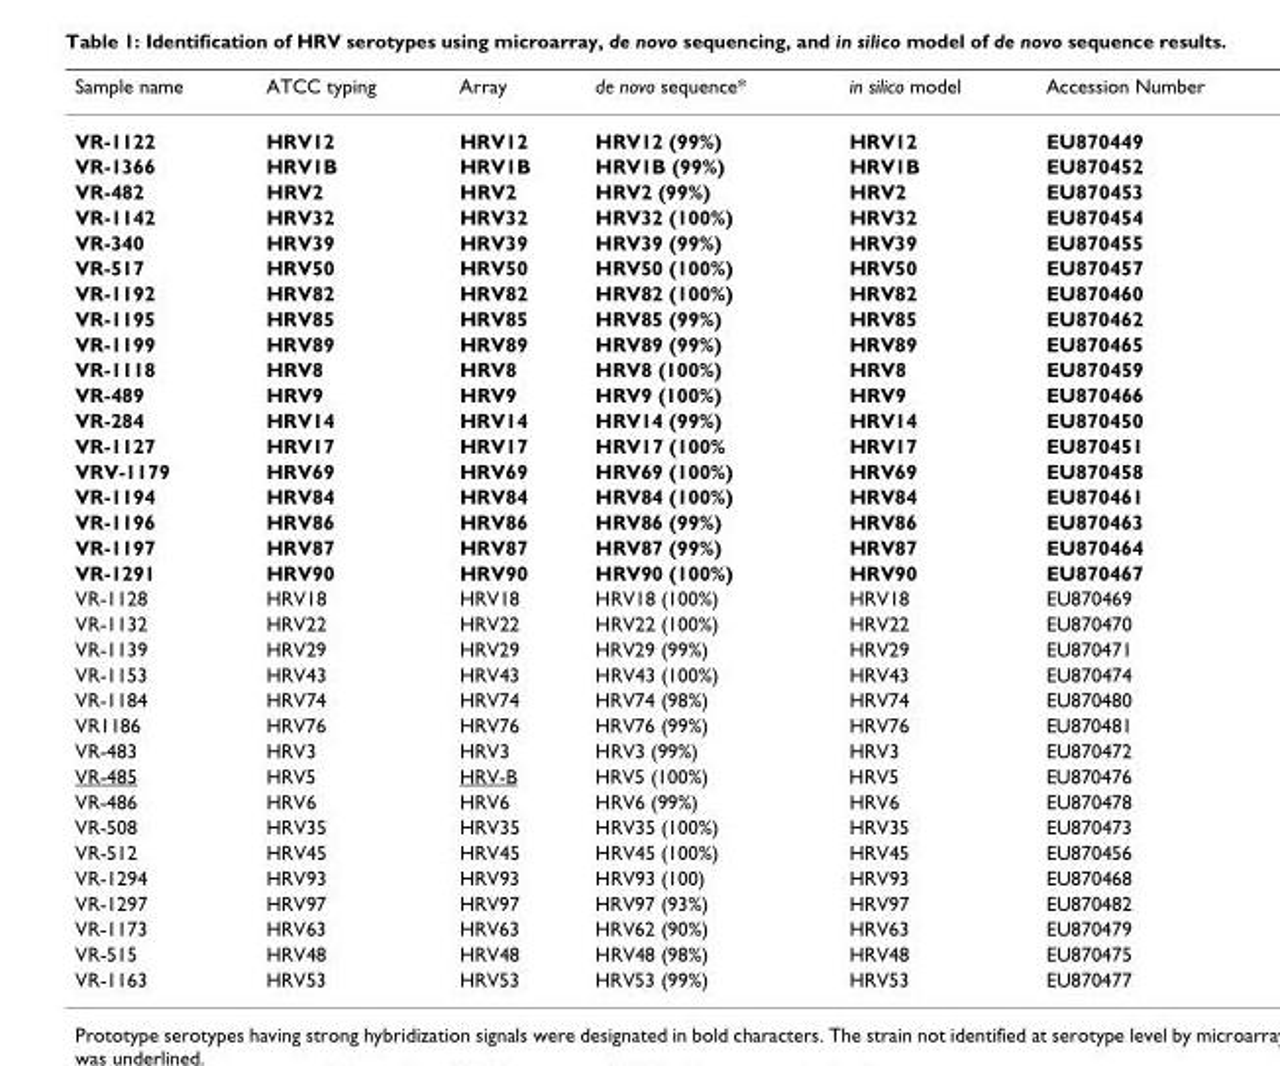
<table><thead><tr><td>Sample name</td><td>ATCC typing</td><td>Array</td><td>de novo sequence*</td><td>in silico model</td><td>Accession Number</td></tr></thead><tbody><tr><td>VR-1122</td><td>HRV12</td><td>HRV12</td><td>HRV12 (99%)</td><td>HRV12</td><td>EU870449</td></tr><tr><td>VR-1366</td><td>HRV1B</td><td>HRV1B</td><td>HRV1B (99%)</td><td>HRV1B</td><td>EU870452</td></tr><tr><td>VR-482</td><td>HRV2</td><td>HRV2</td><td>HRV2 (99%)</td><td>HRV2</td><td>EU870453</td></tr><tr><td>VR-1142</td><td>HRV32</td><td>HRV32</td><td>HRV32 (100%)</td><td>HRV32</td><td>EU870454</td></tr><tr><td>VR-340</td><td>HRV39</td><td>HRV39</td><td>HRV39 (99%)</td><td>HRV39</td><td>EU870455</td></tr><tr><td>VR-517</td><td>HRV50</td><td>HRV50</td><td>HRV50 (100%)</td><td>HRV50</td><td>EU870457</td></tr><tr><td>VR-1192</td><td>HRV82</td><td>HRV82</td><td>HRV82 (100%)</td><td>HRV82</td><td>EU870460</td></tr><tr><td>VR-1195</td><td>HRV85</td><td>HRV85</td><td>HRV85 (99%)</td><td>HRV85</td><td>EU870462</td></tr><tr><td>VR-1199</td><td>HRV89</td><td>HRV89</td><td>HRV89 (99%)</td><td>HRV89</td><td>EU870465</td></tr><tr><td>VR-1118</td><td>HRV8</td><td>HRV8</td><td>HRV8 (100%)</td><td>HRV8</td><td>EU870459</td></tr><tr><td>VR-489</td><td>HRV9</td><td>HRV9</td><td>HRV9 (100%)</td><td>HRV9</td><td>EU870466</td></tr><tr><td>VR-284</td><td>HRV14</td><td>HRV14</td><td>HRV14 (99%)</td><td>HRV14</td><td>EU870450</td></tr><tr><td>VR-1127</td><td>HRV17</td><td>HRV17</td><td>HRV17 (100%</td><td>HRV17</td><td>EU870451</td></tr><tr><td>VRV-1179</td><td>HRV69</td><td>HRV69</td><td>HRV69 (100%)</td><td>HRV69</td><td>EU870458</td></tr><tr><td>VR-1194</td><td>HRV84</td><td>HRV84</td><td>HRV84 (100%)</td><td>HRV84</td><td>EU870461</td></tr><tr><td>VR-1196</td><td>HRV86</td><td>HRV86</td><td>HRV86 (99%)</td><td>HRV86</td><td>EU870463</td></tr><tr><td>VR-1197</td><td>HRV87</td><td>HRV87</td><td>HRV87 (99%)</td><td>HRV87</td><td>EU870464</td></tr><tr><td>VR-1291</td><td>HRV90</td><td>HRV90</td><td>HRV90 (100%)</td><td>HRV90</td><td>EU870467</td></tr><tr><td>VR-1128</td><td>HRV18</td><td>HRV18</td><td>HRV18 (100%)</td><td>HRV18</td><td>EU870469</td></tr><tr><td>VR-1132</td><td>HRV22</td><td>HRV22</td><td>HRV22 (100%)</td><td>HRV22</td><td>EU870470</td></tr><tr><td>VR-1139</td><td>HRV29</td><td>HRV29</td><td>HRV29 (99%)</td><td>HRV29</td><td>EU870471</td></tr><tr><td>VR-1153</td><td>HRV43</td><td>HRV43</td><td>HRV43 (100%)</td><td>HRV43</td><td>EU870474</td></tr><tr><td>VR-1184</td><td>HRV74</td><td>HRV74</td><td>HRV74 (98%)</td><td>HRV74</td><td>EU870480</td></tr><tr><td>VR1186</td><td>HRV76</td><td>HRV76</td><td>HRV76 (99%)</td><td>HRV76</td><td>EU870481</td></tr><tr><td>VR-483</td><td>HRV3</td><td>HRV3</td><td>HRV3 (99%)</td><td>HRV3</td><td>EU870472</td></tr><tr><td>VR-485</td><td>HRV5</td><td>HRV-B</td><td>HRV5 (100%)</td><td>HRV5</td><td>EU870476</td></tr><tr><td>VR-486</td><td>HRV6</td><td>HRV6</td><td>HRV6 (99%)</td><td>HRV6</td><td>EU870478</td></tr><tr><td>VR-508</td><td>HRV35</td><td>HRV35</td><td>HRV35 (100%)</td><td>HRV35</td><td>EU870473</td></tr><tr><td>VR-512</td><td>HRV45</td><td>HRV45</td><td>HRV45 (100%)</td><td>HRV45</td><td>EU870456</td></tr><tr><td>VR-1294</td><td>HRV93</td><td>HRV93</td><td>HRV93 (100)</td><td>HRV93</td><td>EU870468</td></tr><tr><td>VR-1297</td><td>HRV97</td><td>HRV97</td><td>HRV97 (93%)</td><td>HRV97</td><td>EU870482</td></tr><tr><td>VR-1173</td><td>HRV63</td><td>HRV63</td><td>HRV62 (90%)</td><td>HRV63</td><td>EU870479</td></tr><tr><td>VR-515</td><td>HRV48</td><td>HRV48</td><td>HRV48 (98%)</td><td>HRV48</td><td>EU870475</td></tr><tr><td>VR-1163</td><td>HRV53</td><td>HRV53</td><td>HRV53 (99%)</td><td>HRV53</td><td>EU870477</td></tr></tbody></table>